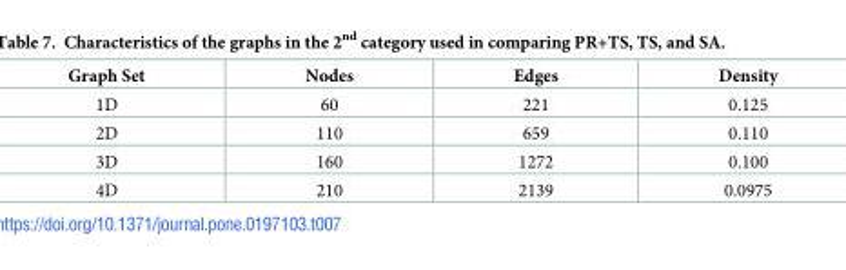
<table><thead><tr><td>Graph Set</td><td>Nodes</td><td>Edges</td><td>Density</td></tr></thead><tbody><tr><td>1D</td><td>60</td><td>221</td><td>0.125</td></tr><tr><td>2D</td><td>110</td><td>659</td><td>0.110</td></tr><tr><td>3D</td><td>160</td><td>1272</td><td>0.100</td></tr><tr><td>4D</td><td>210</td><td>2139</td><td>0.0975</td></tr></tbody></table>